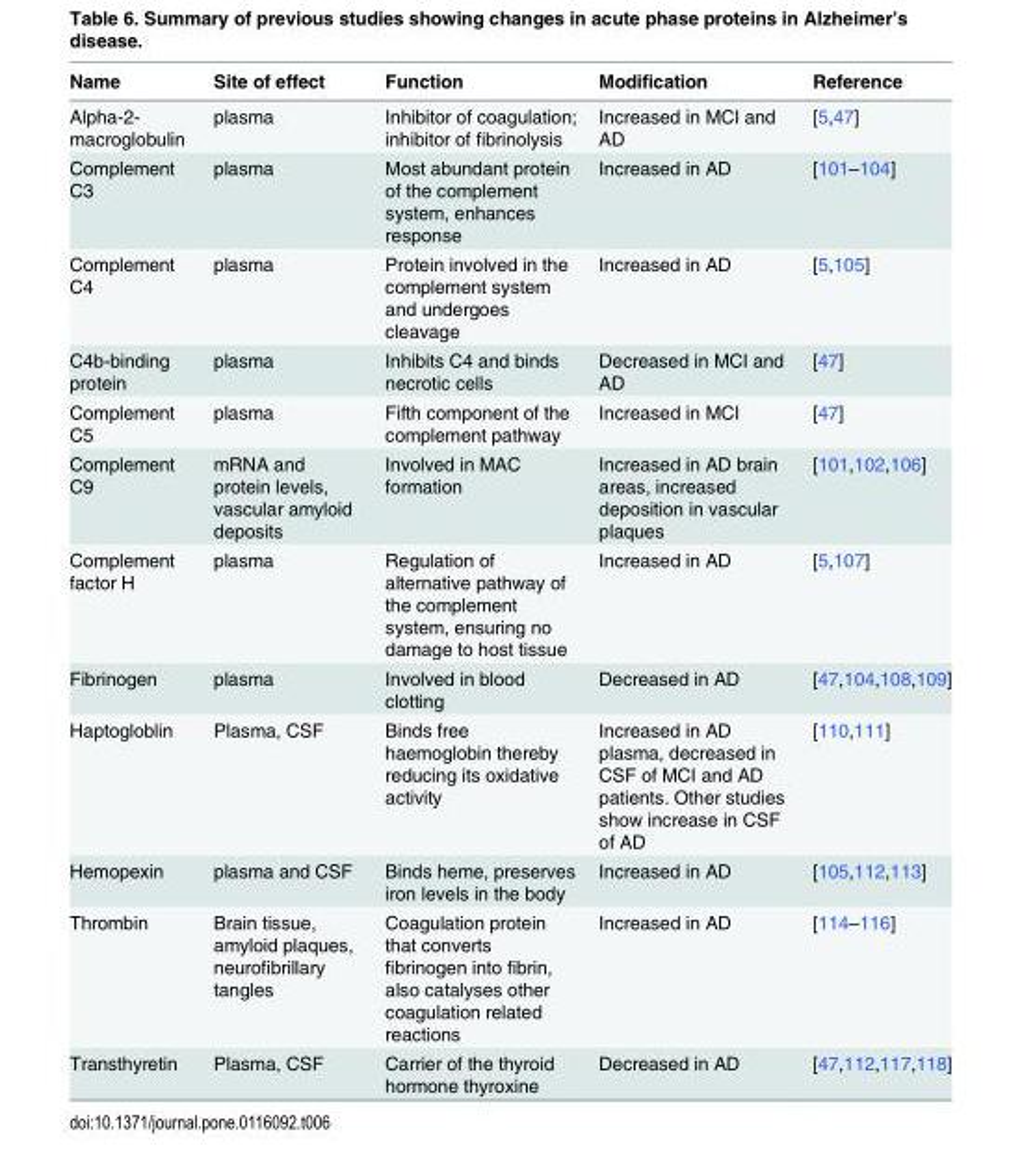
<table><thead><tr><td>Name</td><td>Site of effect</td><td>Function</td><td>Modification</td><td>Reference</td></tr></thead><tbody><tr><td>Alpha-2- macroglobulin</td><td>plasma</td><td>Inhibitor of coagulation; inhibitor of fibrinolysis</td><td>Increased in MCI and AD</td><td>[5,47]</td></tr><tr><td>Complement C3</td><td>plasma</td><td>Most abundant protein of the complement system, enhances response</td><td>Increased in AD</td><td>[101–104]</td></tr><tr><td>Complement C4</td><td>plasma</td><td>Protein involved in the complement system and undergoes cleavage</td><td>Increased in AD</td><td>[5,105]</td></tr><tr><td>C4b-binding protein</td><td>plasma</td><td>Inhibits C4 and binds necrotic cells</td><td>Decreased in MCI and AD</td><td>[47]</td></tr><tr><td>Complement C5</td><td>plasma</td><td>Fifth component of the complement pathway</td><td>Increased in MCI</td><td>[47]</td></tr><tr><td>Complement C9</td><td>mRNA and protein levels, vascular amyloid deposits</td><td>Involved in MAC formation</td><td>Increased in AD brain areas, increased deposition in vascular plaques</td><td>[101,102,106]</td></tr><tr><td>Complement factor H</td><td>plasma</td><td>Regulation of alternative pathway of the complement system, ensuring no damage to host tissue</td><td>Increased in AD</td><td>[5,107]</td></tr><tr><td>Fibrinogen</td><td>plasma</td><td>Involved in blood clotting</td><td>Decreased in AD</td><td>[47,104,108,109]</td></tr><tr><td>Haptogloblin</td><td>Plasma, CSF</td><td>Binds free haemoglobin thereby reducing its oxidative activity</td><td>Increased in AD plasma, decreased in CSF of MCI and AD patients. Other studies show increase in CSF of AD</td><td>[110,111]</td></tr><tr><td>Hemopexin</td><td>plasma and CSF</td><td>Binds heme, preserves iron levels in the body</td><td>Increased in AD</td><td>[105,112,113]</td></tr><tr><td>Thrombin</td><td>Brain tissue, amyloid plaques, neurofibrillary tangles</td><td>Coagulation protein that converts fibrinogen into fibrin, also catalyses other coagulation related reactions</td><td>Increased in AD</td><td>[114–116]</td></tr><tr><td>Transthyretin</td><td>Plasma, CSF</td><td>Carrier of the thyroid hormone thyroxine</td><td>Decreased in AD</td><td>[47,112,117,118]</td></tr></tbody></table>